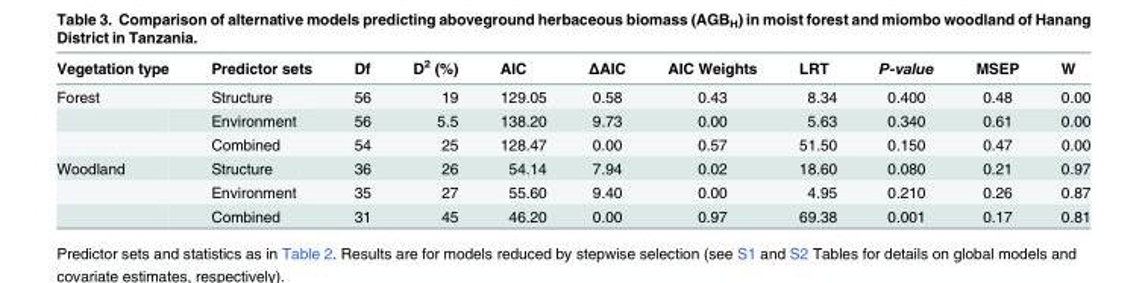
<table><thead><tr><td>Vegetation type</td><td>Predictor sets</td><td>Df</td><td>D<sup>2</sup> (%)</td><td>AIC</td><td>ΔAIC</td><td>AIC Weights</td><td>LRT</td><td>P-value</td><td>MSEP</td><td>W</td></tr></thead><tbody><tr><td rowspan="3">Forest</td><td>Structure</td><td>56</td><td>19</td><td>129.05</td><td>0.58</td><td>0.43</td><td>8.34</td><td>0.400</td><td>0.48</td><td>0.00</td></tr><tr><td>Environment</td><td>56</td><td>5.5</td><td>138.20</td><td>9.73</td><td>0.00</td><td>5.63</td><td>0.340</td><td>0.61</td><td>0.00</td></tr><tr><td>Combined</td><td>54</td><td>25</td><td>128.47</td><td>0.00</td><td>0.57</td><td>51.50</td><td>0.150</td><td>0.47</td><td>0.00</td></tr><tr><td rowspan="3">Woodland</td><td>Structure</td><td>36</td><td>26</td><td>54.14</td><td>7.94</td><td>0.02</td><td>18.60</td><td>0.080</td><td>0.21</td><td>0.97</td></tr><tr><td>Environment</td><td>35</td><td>27</td><td>55.60</td><td>9.40</td><td>0.00</td><td>4.95</td><td>0.210</td><td>0.26</td><td>0.87</td></tr><tr><td>Combined</td><td>31</td><td>45</td><td>46.20</td><td>0.00</td><td>0.97</td><td>69.38</td><td>0.001</td><td>0.17</td><td>0.81</td></tr></tbody></table>